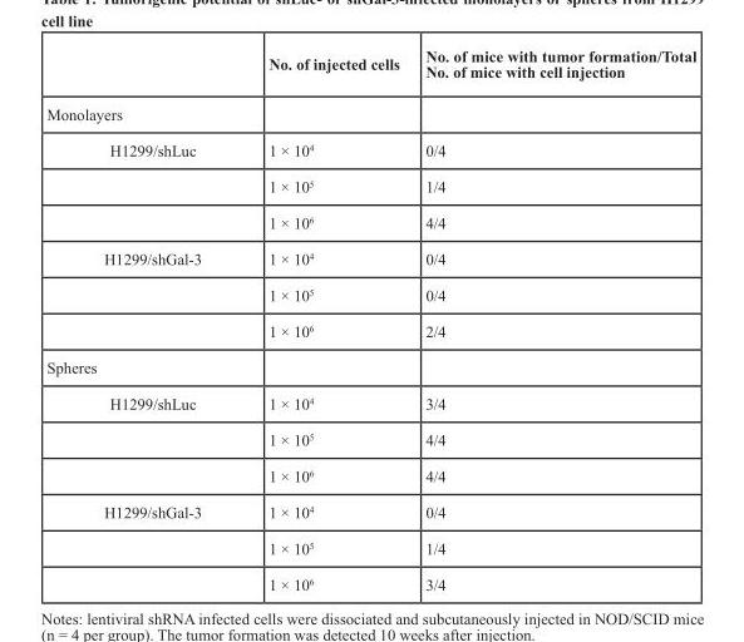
<table><thead><tr><td></td><td>No. of injected cells</td><td>No. of mice with tumor formation/Total No. of mice with cell injection</td></tr></thead><tbody><tr><td colspan="3">Monolayers</td></tr><tr><td rowspan="3">H1299/shLuc</td><td>1 × 10<sup>4</sup></td><td>0/4</td></tr><tr><td>1 × 10<sup>5</sup></td><td>1/4</td></tr><tr><td>1 × 10<sup>6</sup></td><td>4/4</td></tr><tr><td rowspan="3">H1299/shGal-3</td><td>1 × 10<sup>4</sup></td><td>0/4</td></tr><tr><td>1 × 10<sup>5</sup></td><td>0/4</td></tr><tr><td>1 × 10<sup>6</sup></td><td>2/4</td></tr><tr><td colspan="3">Spheres</td></tr><tr><td rowspan="3">H1299/shLuc</td><td>1 × 10<sup>4</sup></td><td>3/4</td></tr><tr><td>1 × 10<sup>5</sup></td><td>4/4</td></tr><tr><td>1 × 10<sup>6</sup></td><td>4/4</td></tr><tr><td rowspan="3">H1299/shGal-3</td><td>1 × 10<sup>4</sup></td><td>0/4</td></tr><tr><td>1 × 10<sup>5</sup></td><td>1/4</td></tr><tr><td>1 × 10<sup>6</sup></td><td>3/4</td></tr></tbody></table>